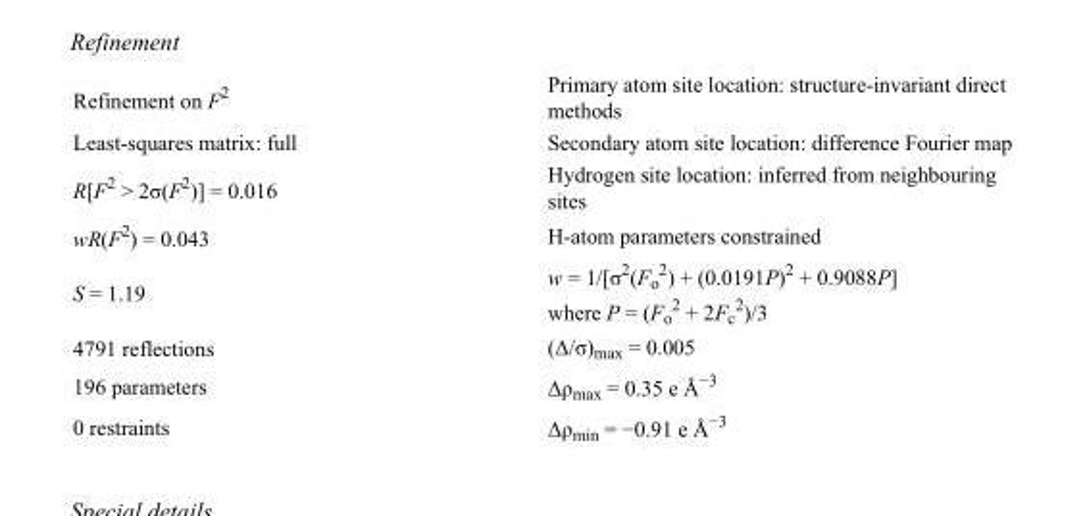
<table><tbody><tr><td>Refinement on F<sup>2</sup></td><td>Primary atom site location: structure-invariant direct methods</td></tr><tr><td>Least-squares matrix: full</td><td>Secondary atom site location: difference Fourier map</td></tr><tr><td>R[F<sup>2</sup> &gt; 2σ(F<sup>2</sup>)] = 0.016</td><td>Hydrogen site location: inferred from neighbouring sites</td></tr><tr><td>wR(F<sup>2</sup>) = 0.043</td><td>H-atom parameters constrained</td></tr><tr><td>S = 1.19</td><td>w = 1/[σ<sup>2</sup>(F<sub>o</sub> <sup>2</sup>) + (0.0191P)<sup>2</sup> + 0.9088P] where P = (F<sub>o</sub> <sup>2</sup> + 2F<sub>c</sub> <sup>2</sup>)/3</td></tr><tr><td>4791 reflections</td><td>(Δ/σ)<sub>max</sub> = 0.005</td></tr><tr><td>196 parameters</td><td>Δρ<sub>max</sub> = 0.35 e Å<sup>−3</sup></td></tr><tr><td>0 restraints</td><td>Δρ<sub>min</sub> = −0.91 e Å<sup>−3</sup></td></tr></tbody></table>